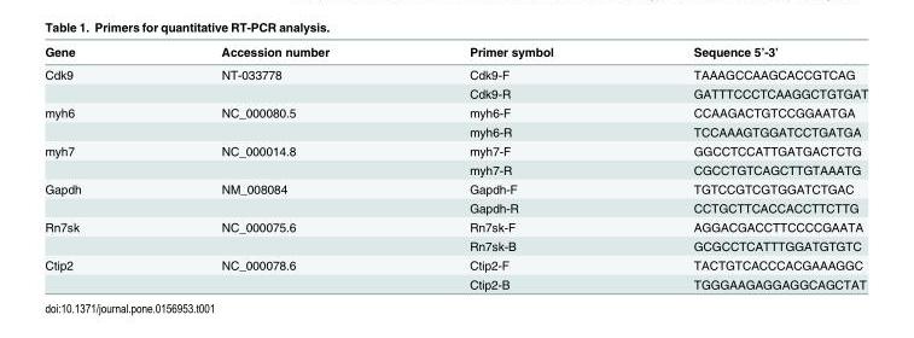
<table><thead><tr><td>Gene</td><td>Accession number</td><td>Primer symbol</td><td>Sequence 5’-3’</td></tr></thead><tbody><tr><td rowspan="2">Cdk9</td><td>NT-033778</td><td>Cdk9-F</td><td>TAAAGCCAAGCACCGTCAG</td></tr><tr><td></td><td>Cdk9-R</td><td>GATTTCCCTCAAGGCTGTGAT</td></tr><tr><td rowspan="2">myh6</td><td>NC_000080.5</td><td>myh6-F</td><td>CCAAGACTGTCCGGAATGA</td></tr><tr><td></td><td>myh6-R</td><td>TCCAAAGTGGATCCTGATGA</td></tr><tr><td rowspan="2">myh7</td><td>NC_000014.8</td><td>myh7-F</td><td>GGCCTCCATTGATGACTCTG</td></tr><tr><td></td><td>myh7-R</td><td>CGCCTGTCAGCTTGTAAATG</td></tr><tr><td rowspan="2">Gapdh</td><td>NM_008084</td><td>Gapdh-F</td><td>TGTCCGTCGTGGATCTGAC</td></tr><tr><td></td><td>Gapdh-R</td><td>CCTGCTTCACCACCTTCTTG</td></tr><tr><td rowspan="2">Rn7sk</td><td>NC_000075.6</td><td>Rn7sk-F</td><td>AGGACGACCTTCCCCGAATA</td></tr><tr><td></td><td>Rn7sk-B</td><td>GCGCCTCATTTGGATGTGTC</td></tr><tr><td rowspan="2">Ctip2</td><td>NC_000078.6</td><td>Ctip2-F</td><td>TACTGTCACCCACGAAAGGC</td></tr><tr><td></td><td>Ctip2-B</td><td>TGGGAAGAGGAGGCAGCTAT</td></tr></tbody></table>